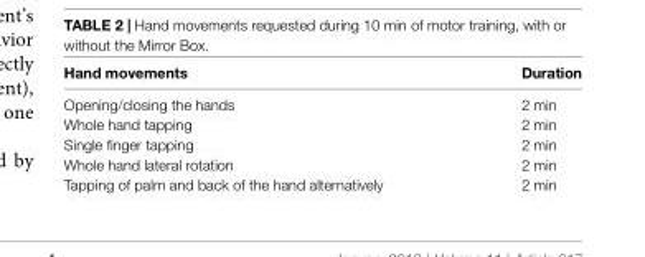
<table><thead><tr><td>Hand movements</td><td>Duration</td></tr></thead><tbody><tr><td>Opening/closing the hands</td><td>2 min</td></tr><tr><td>Whole hand tapping</td><td>2 min</td></tr><tr><td>Single finger tapping</td><td>2 min</td></tr><tr><td>Whole hand lateral rotation</td><td>2 min</td></tr><tr><td>Tapping of palm and back of the hand alternatively</td><td>2 min</td></tr></tbody></table>